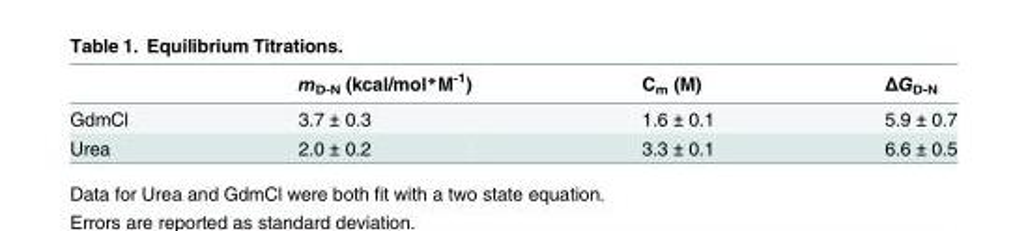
<table><thead><tr><td></td><td>m<sub>D-N</sub> (kcal/mol*M<sup>-1</sup>)</td><td>C<sub>m</sub> (M)</td><td>ΔG<sub>D-N</sub></td></tr></thead><tbody><tr><td>GdmCl</td><td>3.7 ± 0.3</td><td>1.6 ± 0.1</td><td>5.9 ± 0.7</td></tr><tr><td>Urea</td><td>2.0 ± 0.2</td><td>3.3 ± 0.1</td><td>6.6 ± 0.5</td></tr></tbody></table>